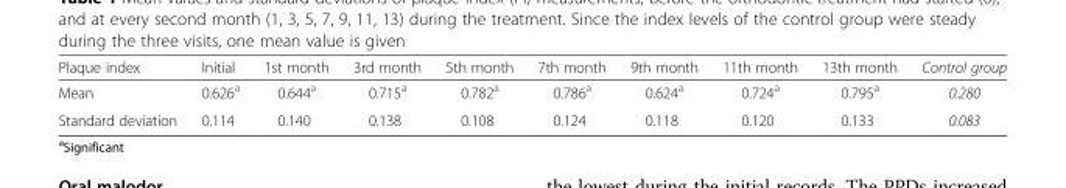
<table><thead><tr><td>Plaque index</td><td>Initial</td><td>1st month</td><td>3rd month</td><td>5th month</td><td>7th month</td><td>9th month</td><td>11th month</td><td>13th month</td><td>Control group</td></tr></thead><tbody><tr><td>Mean</td><td>0.626<sup>a</sup></td><td>0.644<sup>a</sup></td><td>0.715<sup>a</sup></td><td>0.782<sup>a</sup></td><td>0.786<sup>a</sup></td><td>0.624<sup>a</sup></td><td>0.724<sup>a</sup></td><td>0.795<sup>a</sup></td><td>0.280</td></tr><tr><td>Standard deviation</td><td>0.114</td><td>0.140</td><td>0.138</td><td>0.108</td><td>0.124</td><td>0.118</td><td>0.120</td><td>0.133</td><td>0.083</td></tr></tbody></table>